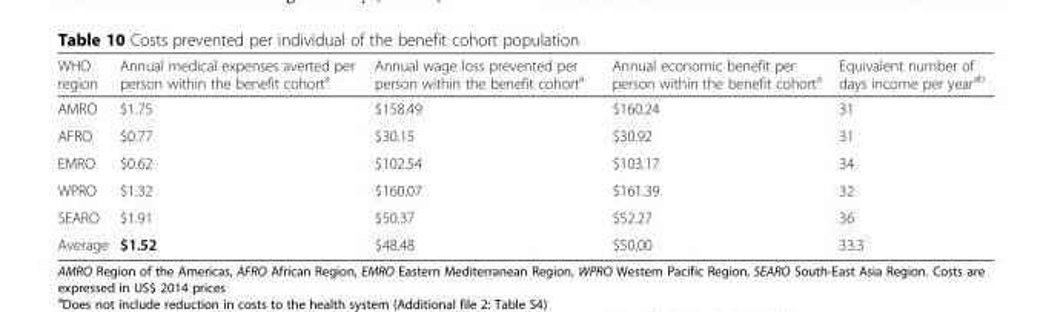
<table><thead><tr><td>WHO region</td><td>Annual medical expenses averted per person within the benefit cohort<sup>a</sup></td><td>Annual wage loss prevented per person within the benefit cohort<sup>a</sup></td><td>Annual economic benefit per person within the benefit cohort<sup>a</sup></td><td>Equivalent number of days income per year<sup>ab</sup></td></tr></thead><tbody><tr><td>AMRO</td><td>$1.75</td><td>$158.49</td><td>$160.24</td><td>31</td></tr><tr><td>AFRO</td><td>$0.77</td><td>$30.15</td><td>$30.92</td><td>31</td></tr><tr><td>EMRO</td><td>$0.62</td><td>$102.54</td><td>$103.17</td><td>34</td></tr><tr><td>WPRO</td><td>$1.32</td><td>$160.07</td><td>$161.39</td><td>32</td></tr><tr><td>SEARO</td><td>$1.91</td><td>$50.37</td><td>$52.27</td><td>36</td></tr><tr><td>Average</td><td>$1.52</td><td>$48.48</td><td>$50.00</td><td>33.3</td></tr></tbody></table>